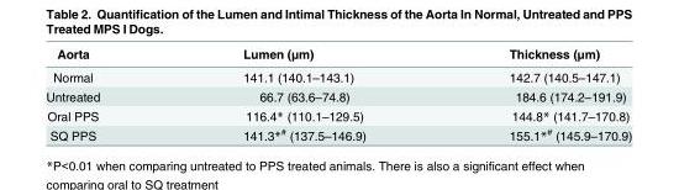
<table><thead><tr><td>Aorta</td><td>Lumen (μm)</td><td>Thickness (μm)</td></tr></thead><tbody><tr><td>Normal</td><td>141.1 (140.1–143.1)</td><td>142.7 (140.5–147.1)</td></tr><tr><td>Untreated</td><td>66.7 (63.6–74.8)</td><td>184.6 (174.2–191.9)</td></tr><tr><td>Oral PPS</td><td>116.4* (110.1–129.5)</td><td>144.8* (141.7–170.8)</td></tr><tr><td>SQ PPS</td><td>141.3*<sup>#</sup> (137.5–146.9)</td><td>155.1*<sup>#</sup> (145.9–170.9)</td></tr></tbody></table>